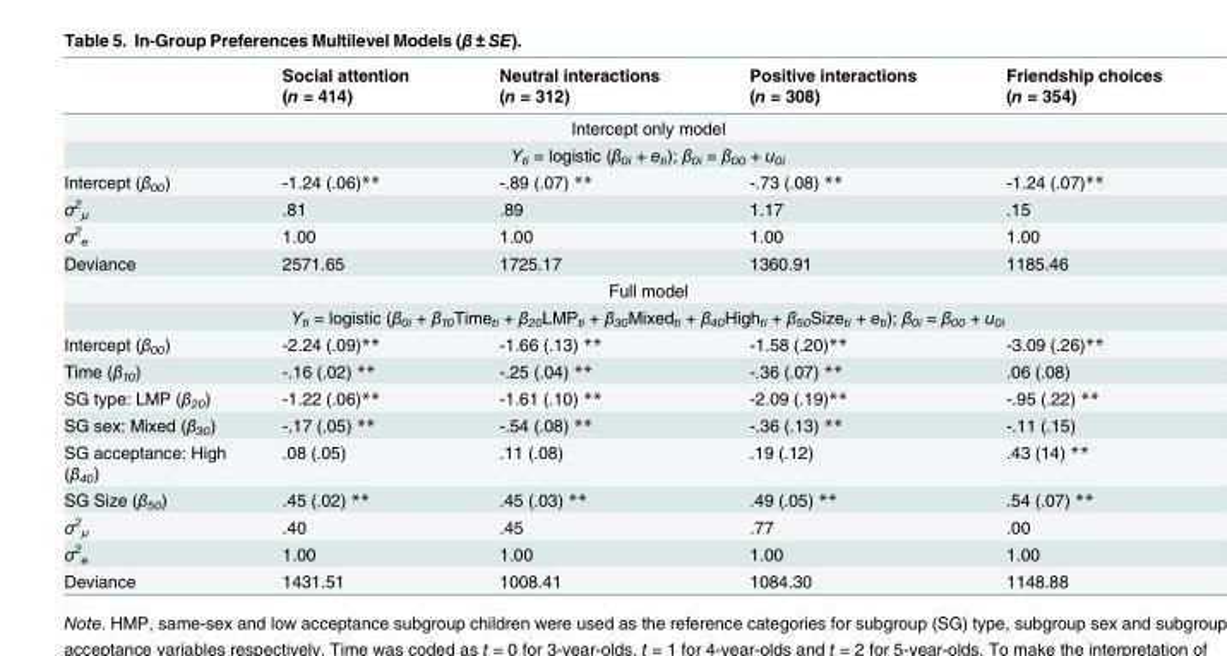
<table><thead><tr><td></td><td>Social attention (n = 414)</td><td>Neutral interactions (n = 312)</td><td>Positive interactions (n = 308)</td><td>Friendship choices (n = 354)</td></tr></thead><tbody><tr><td colspan="5">Intercept only model</td></tr><tr><td colspan="5">Y<sub>ti</sub> = logistic (β<sub>0i</sub> + e<sub>ti</sub>); β<sub>0i</sub> = β<sub>00</sub> + u<sub>0i</sub></td></tr><tr><td>Intercept (β<sub>00</sub>)</td><td>-1.24 (.06)**</td><td>-.89 (.07) **</td><td>-.73 (.08) **</td><td>-1.24 (.07)**</td></tr><tr><td>σ<sup>2</sup> <sub>μ</sub></td><td>.81</td><td>.89</td><td>1.17</td><td>.15</td></tr><tr><td>σ<sup>2</sup> <sub>e</sub></td><td>1.00</td><td>1.00</td><td>1.00</td><td>1.00</td></tr><tr><td>Deviance</td><td>2571.65</td><td>1725.17</td><td>1360.91</td><td>1185.46</td></tr><tr><td colspan="5">Full model</td></tr><tr><td colspan="5">Yti = logistic (β0i + β10Timeti + β20LMPti + β30Mixedti + β40Highti + β50Sizeti + eti); β0i = β00 + u0i</td></tr><tr><td>Intercept (β<sub>00</sub>)</td><td>-2.24 (.09)**</td><td>-1.66 (.13) **</td><td>-1.58 (.20)**</td><td>-3.09 (.26)**</td></tr><tr><td>Time (β<sub>10</sub>)</td><td>-.16 (.02) **</td><td>-.25 (.04) **</td><td>-.36 (.07) **</td><td>.06 (.08)</td></tr><tr><td>SG type: LMP (β<sub>20</sub>)</td><td>-1.22 (.06)**</td><td>-1.61 (.10) **</td><td>-2.09 (.19)**</td><td>-.95 (.22) **</td></tr><tr><td>SG sex: Mixed (β<sub>30</sub>)</td><td>-.17 (.05) **</td><td>-.54 (.08) **</td><td>-.36 (.13) **</td><td>-.11 (.15)</td></tr><tr><td>SG acceptance: High (β<sub>40</sub>)</td><td>.08 (.05)</td><td>.11 (.08)</td><td>.19 (.12)</td><td>.43 (14) **</td></tr><tr><td>SG Size (β<sub>50</sub>)</td><td>.45 (.02) **</td><td>.45 (.03) **</td><td>.49 (.05) **</td><td>.54 (.07) **</td></tr><tr><td>σ<sup>2</sup> <sub>μ</sub></td><td>.40</td><td>.45</td><td>.77</td><td>.00</td></tr><tr><td>σ<sup>2</sup> <sub>e</sub></td><td>1.00</td><td>1.00</td><td>1.00</td><td>1.00</td></tr><tr><td>Deviance</td><td>1431.51</td><td>1008.41</td><td>1084.30</td><td>1148.88</td></tr></tbody></table>